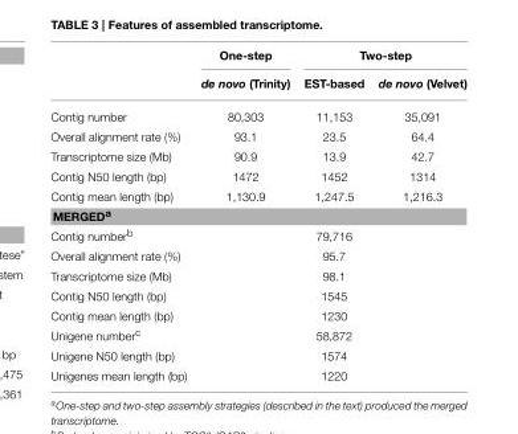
<table><thead><tr><td rowspan="2"></td><td rowspan="2">One-step de novo (Trinity)</td><td colspan="2">Two-step</td></tr><tr><td>EST-based</td><td>de novo (Velvet)</td></tr></thead><tbody><tr><td>Contig number</td><td>80,303</td><td>11,153</td><td>35,091</td></tr><tr><td>Overall alignment rate (%)</td><td>93.1</td><td>23.5</td><td>64.4</td></tr><tr><td>Transcriptome size (Mb)</td><td>90.9</td><td>13.9</td><td>42.7</td></tr><tr><td>Contig N50 length (bp)</td><td>1472</td><td>1452</td><td>1314</td></tr><tr><td>Contig mean length (bp)</td><td>1,130.9</td><td>1,247.5</td><td>1,216.3</td></tr><tr><td colspan="4">MERGED<sup>a</sup></td></tr><tr><td>Contig number<sup>b</sup></td><td colspan="3">79,716</td></tr><tr><td>Overall alignment rate (%)</td><td colspan="3">95.7</td></tr><tr><td>Transcriptome size (Mb)</td><td colspan="3">98.1</td></tr><tr><td>Contig N50 length (bp)</td><td colspan="3">1545</td></tr><tr><td>Contig mean length (bp)</td><td colspan="3">1230</td></tr><tr><td>Unigene number<sup>c</sup></td><td colspan="3">58,872</td></tr><tr><td>Unigene N50 length (bp)</td><td colspan="3">1574</td></tr><tr><td>Unigenes mean length (bp)</td><td colspan="3">1220</td></tr></tbody></table>